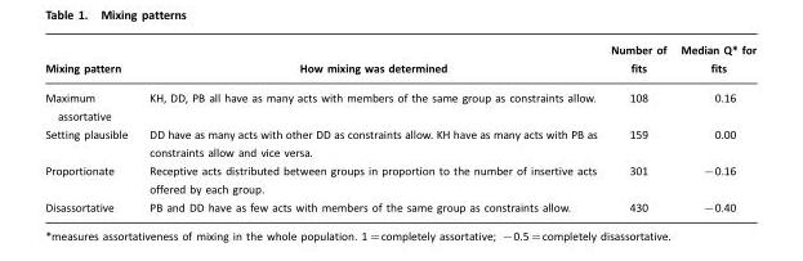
<table><thead><tr><td>Mixing pattern</td><td>How mixing was determined</td><td>Number of fits</td><td>Median Q* for fits</td></tr></thead><tbody><tr><td>Maximum assortative</td><td>KH, DD, PB all have as many acts with members of the same group as constraints allow.</td><td>108</td><td>0.16</td></tr><tr><td>Setting plausible</td><td>DD have as many acts with other DD as constraints allow. KH have as many acts with PB as constraints allow and vice versa.</td><td>159</td><td>0.00</td></tr><tr><td>Proportionate</td><td>Receptive acts distributed between groups in proportion to the number of insertive acts offered by each group.</td><td>301</td><td>−0.16</td></tr><tr><td>Disassortative</td><td>PB and DD have as few acts with members of the same group as constraints allow.</td><td>430</td><td>−0.40</td></tr></tbody></table>